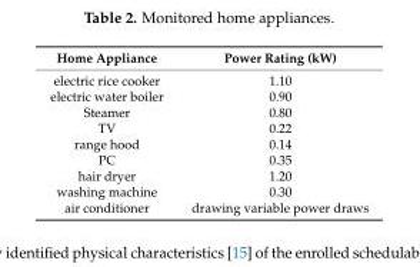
<table><thead><tr><td>Home Appliance</td><td>Power Rating (kW)</td></tr></thead><tbody><tr><td>electric rice cooker</td><td>1.10</td></tr><tr><td>electric water boiler</td><td>0.90</td></tr><tr><td>Steamer</td><td>0.80</td></tr><tr><td>TV</td><td>0.22</td></tr><tr><td>range hood</td><td>0.14</td></tr><tr><td>PC</td><td>0.35</td></tr><tr><td>hair dryer</td><td>1.20</td></tr><tr><td>washing machine</td><td>0.30</td></tr><tr><td>air conditioner</td><td>drawing variable power draws</td></tr></tbody></table>